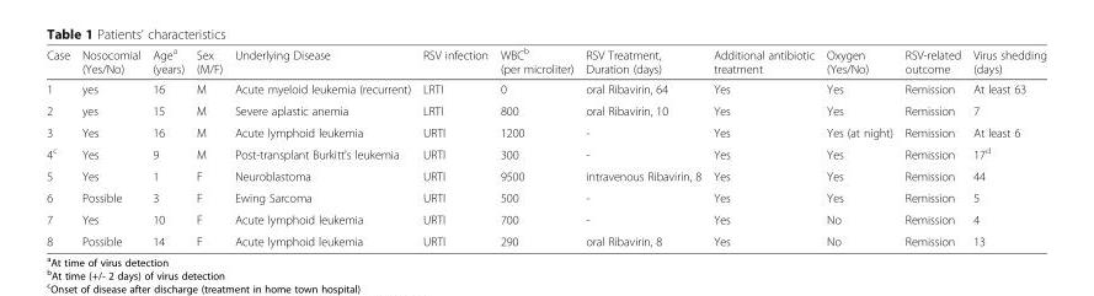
<table><thead><tr><td>Case</td><td>Nosocomial (Yes/No)</td><td>Age<sup>a</sup> (years)</td><td>Sex (M/F)</td><td>Underlying Disease</td><td>RSV infection</td><td>WBC<sup>b</sup> (per microliter)</td><td>RSV Treatment, Duration (days)</td><td>Additional antibiotic treatment</td><td>Oxygen (Yes/No)</td><td>RSV-related outcome</td><td>Virus shedding (days)</td></tr></thead><tbody><tr><td>1</td><td>yes</td><td>16</td><td>M</td><td>Acute myeloid leukemia (recurrent)</td><td>LRTI</td><td>0</td><td>oral Ribavirin, 64</td><td>Yes</td><td>Yes</td><td>Remission</td><td>At least 63</td></tr><tr><td>2</td><td>yes</td><td>15</td><td>M</td><td>Severe aplastic anemia</td><td>LRTI</td><td>800</td><td>oral Ribavirin, 10</td><td>Yes</td><td>Yes</td><td>Remission</td><td>7</td></tr><tr><td>3</td><td>Yes</td><td>16</td><td>M</td><td>Acute lymphoid leukemia</td><td>URTI</td><td>1200</td><td>-</td><td>Yes</td><td>Yes (at night)</td><td>Remission</td><td>At least 6</td></tr><tr><td>4<sup>c</sup></td><td>Yes</td><td>9</td><td>M</td><td>Post-transplant Burkitt&#x27;s leukemia</td><td>URTI</td><td>300</td><td>-</td><td>Yes</td><td>Yes</td><td>Remission</td><td>17<sup>d</sup></td></tr><tr><td>5</td><td>Yes</td><td>1</td><td>F</td><td>Neuroblastoma</td><td>URTI</td><td>9500</td><td>intravenous Ribavirin, 8</td><td>Yes</td><td>Yes</td><td>Remission</td><td>44</td></tr><tr><td>6</td><td>Possible</td><td>3</td><td>F</td><td>Ewing Sarcoma</td><td>URTI</td><td>500</td><td>-</td><td>Yes</td><td>Yes</td><td>Remission</td><td>5</td></tr><tr><td>7</td><td>Yes</td><td>10</td><td>F</td><td>Acute lymphoid leukemia</td><td>URTI</td><td>700</td><td>-</td><td>Yes</td><td>No</td><td>Remission</td><td>4</td></tr><tr><td>8</td><td>Possible</td><td>14</td><td>F</td><td>Acute lymphoid leukemia</td><td>URTI</td><td>290</td><td>oral Ribavirin, 8</td><td>Yes</td><td>No</td><td>Remission</td><td>13</td></tr></tbody></table>